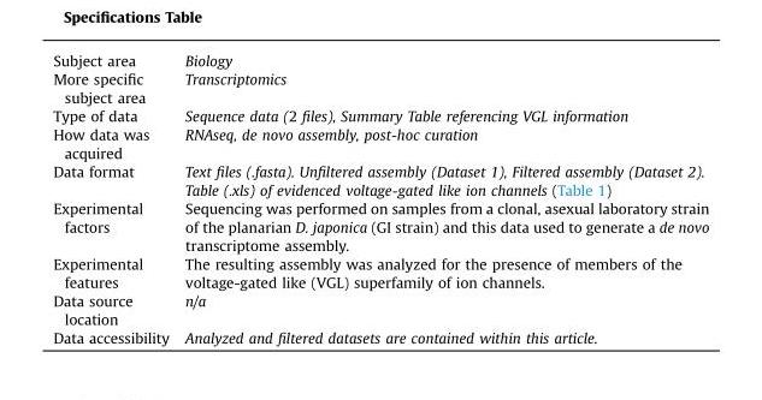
<table><tbody><tr><td>Subject area</td><td>Biology</td></tr><tr><td>More specific subject area</td><td>Transcriptomics</td></tr><tr><td>Type of data</td><td>Sequence data (2 files), Summary Table referencing VGL information</td></tr><tr><td>How data was acquired</td><td>RNAseq, de novo assembly, post-hoc curation</td></tr><tr><td>Data format</td><td>Text files (.fasta). Unfiltered assembly (Dataset 1), Filtered assembly (Dataset 2). Table (.xls) of evidenced voltage-gated like ion channels (Table 1)</td></tr><tr><td>Experimental factors</td><td>Sequencing was performed on samples from a clonal, asexual laboratory strain of the planarian D. japonica (GI strain) and this data used to generate a de novo transcriptome assembly.</td></tr><tr><td>Experimental features</td><td>The resulting assembly was analyzed for the presence of members of the voltage-gated like (VGL) superfamily of ion channels.</td></tr><tr><td>Data source location</td><td>n/a</td></tr><tr><td>Data accessibility</td><td>Analyzed and filtered datasets are contained within this article.</td></tr></tbody></table>